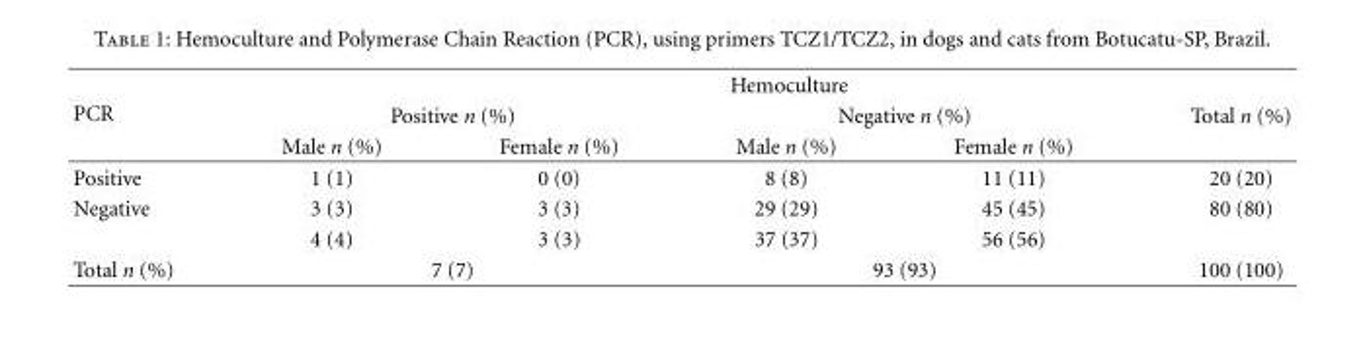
<table><thead><tr><td rowspan="3">PCR</td><td colspan="5">Hemoculture</td></tr><tr><td colspan="2">Positive n (%)</td><td colspan="2">Negative n (%)</td><td rowspan="2">Total n (%)</td></tr><tr><td>Male n (%)</td><td>Female n (%)</td><td>Male n (%)</td><td>Female n (%)</td></tr></thead><tbody><tr><td>Positive</td><td>1 (1)</td><td>0 (0)</td><td>8 (8)</td><td>11 (11)</td><td>20 (20)</td></tr><tr><td rowspan="2">Negative</td><td>3 (3)</td><td>3 (3)</td><td>29 (29)</td><td>45 (45)</td><td>80 (80)</td></tr><tr><td>4 (4)</td><td>3 (3)</td><td>37 (37)</td><td>56 (56)</td><td></td></tr><tr><td>Total n (%)</td><td colspan="2">7 (7)</td><td colspan="2">93 (93)</td><td>100 (100)</td></tr></tbody></table>